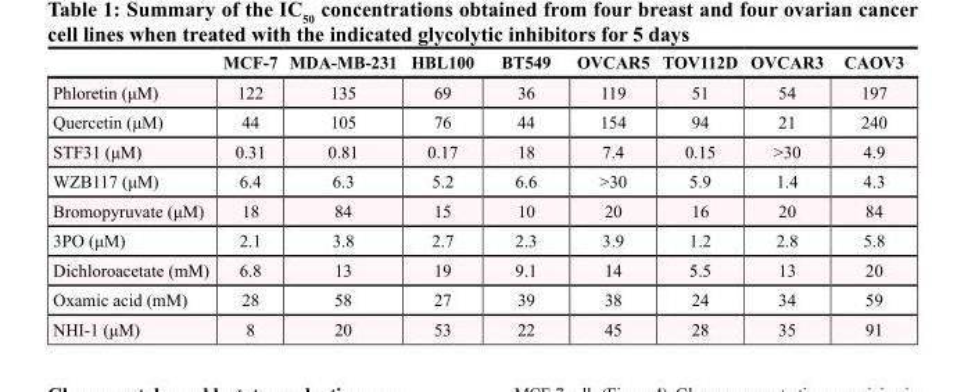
<table><thead><tr><td></td><td>MCF-7</td><td>MDA-MB-231</td><td>HBL100</td><td>BT549</td><td>OVCAR5</td><td>TOV112D</td><td>OVCAR3</td><td>CAOV3</td></tr></thead><tbody><tr><td>Phloretin (μM)</td><td>122</td><td>135</td><td>69</td><td>36</td><td>119</td><td>51</td><td>54</td><td>197</td></tr><tr><td>Quercetin (μM)</td><td>44</td><td>105</td><td>76</td><td>44</td><td>154</td><td>94</td><td>21</td><td>240</td></tr><tr><td>STF31 (μM)</td><td>0.31</td><td>0.81</td><td>0.17</td><td>18</td><td>7.4</td><td>0.15</td><td>&gt;30</td><td>4.9</td></tr><tr><td>WZB117 (μM)</td><td>6.4</td><td>6.3</td><td>5.2</td><td>6.6</td><td>&gt;30</td><td>5.9</td><td>1.4</td><td>4.3</td></tr><tr><td>Bromopyruvate (μM)</td><td>18</td><td>84</td><td>15</td><td>10</td><td>20</td><td>16</td><td>20</td><td>84</td></tr><tr><td>3PO (μM)</td><td>2.1</td><td>3.8</td><td>2.7</td><td>2.3</td><td>3.9</td><td>1.2</td><td>2.8</td><td>5.8</td></tr><tr><td>Dichloroacetate (mM)</td><td>6.8</td><td>13</td><td>19</td><td>9.1</td><td>14</td><td>5.5</td><td>13</td><td>20</td></tr><tr><td>Oxamic acid (mM)</td><td>28</td><td>58</td><td>27</td><td>39</td><td>38</td><td>24</td><td>34</td><td>59</td></tr><tr><td>NHI-1 (μM)</td><td>8</td><td>20</td><td>53</td><td>22</td><td>45</td><td>28</td><td>35</td><td>91</td></tr></tbody></table>